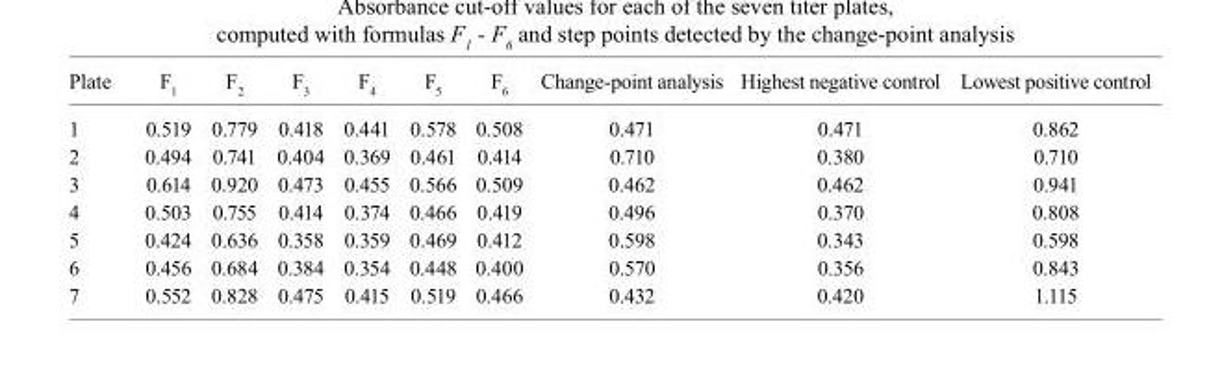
<table><thead><tr><td>Plate</td><td>F<sub>1</sub></td><td>F<sub>2</sub></td><td>F<sub>3</sub></td><td>F<sub>4</sub></td><td>F<sub>5</sub></td><td>F<sub>6</sub></td><td>Change-point analysis</td><td>Highest negative control</td><td>Lowest positive control</td></tr></thead><tbody><tr><td>1</td><td>0.519</td><td>0.779</td><td>0.418</td><td>0.441</td><td>0.578</td><td>0.508</td><td>0.471</td><td>0.471</td><td>0.862</td></tr><tr><td>2</td><td>0.494</td><td>0.741</td><td>0.404</td><td>0.369</td><td>0.461</td><td>0.414</td><td>0.710</td><td>0.380</td><td>0.710</td></tr><tr><td>3</td><td>0.614</td><td>0.920</td><td>0.473</td><td>0.455</td><td>0.566</td><td>0.509</td><td>0.462</td><td>0.462</td><td>0.941</td></tr><tr><td>4</td><td>0.503</td><td>0.755</td><td>0.414</td><td>0.374</td><td>0.466</td><td>0.419</td><td>0.496</td><td>0.370</td><td>0.808</td></tr><tr><td>5</td><td>0.424</td><td>0.636</td><td>0.358</td><td>0.359</td><td>0.469</td><td>0.412</td><td>0.598</td><td>0.343</td><td>0.598</td></tr><tr><td>6</td><td>0.456</td><td>0.684</td><td>0.384</td><td>0.354</td><td>0.448</td><td>0.400</td><td>0.570</td><td>0.356</td><td>0.843</td></tr><tr><td>7</td><td>0.552</td><td>0.828</td><td>0.475</td><td>0.415</td><td>0.519</td><td>0.466</td><td>0.432</td><td>0.420</td><td>1.115</td></tr></tbody></table>